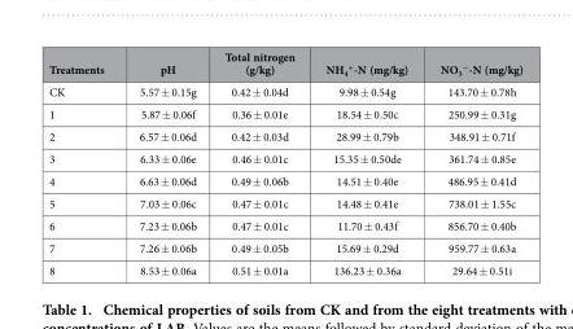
<table><thead><tr><td>Treatments</td><td>pH</td><td>Total nitrogen (g/kg)</td><td>NH<sub>4</sub> <sup>+</sup>-N (mg/kg)</td><td>NO<sub>3</sub> <sup>−</sup>-N (mg/kg)</td></tr></thead><tbody><tr><td>CK</td><td>5.57 ± 0.15g</td><td>0.42 ± 0.04d</td><td>9.98 ± 0.54g</td><td>143.70 ± 0.78h</td></tr><tr><td>1</td><td>5.87 ± 0.06f</td><td>0.36 ± 0.01e</td><td>18.54 ± 0.50c</td><td>250.99 ± 0.31g</td></tr><tr><td>2</td><td>6.57 ± 0.06d</td><td>0.42 ± 0.03d</td><td>28.99 ± 0.79b</td><td>348.91 ± 0.71f</td></tr><tr><td>3</td><td>6.33 ± 0.06e</td><td>0.46 ± 0.01c</td><td>15.35 ± 0.50de</td><td>361.74 ± 0.85e</td></tr><tr><td>4</td><td>6.63 ± 0.06d</td><td>0.49 ± 0.06b</td><td>14.51 ± 0.40e</td><td>486.95 ± 0.41d</td></tr><tr><td>5</td><td>7.03 ± 0.06c</td><td>0.47 ± 0.01c</td><td>14.48 ± 0.41e</td><td>738.01 ± 1.55c</td></tr><tr><td>6</td><td>7.23 ± 0.06b</td><td>0.47 ± 0.01c</td><td>11.70 ± 0.43f</td><td>856.70 ± 0.40b</td></tr><tr><td>7</td><td>7.26 ± 0.06b</td><td>0.49 ± 0.05b</td><td>15.69 ± 0.29d</td><td>959.77 ± 0.63a</td></tr><tr><td>8</td><td>8.53 ± 0.06a</td><td>0.51 ± 0.01a</td><td>136.23 ± 0.36a</td><td>29.64 ± 0.51i</td></tr></tbody></table>